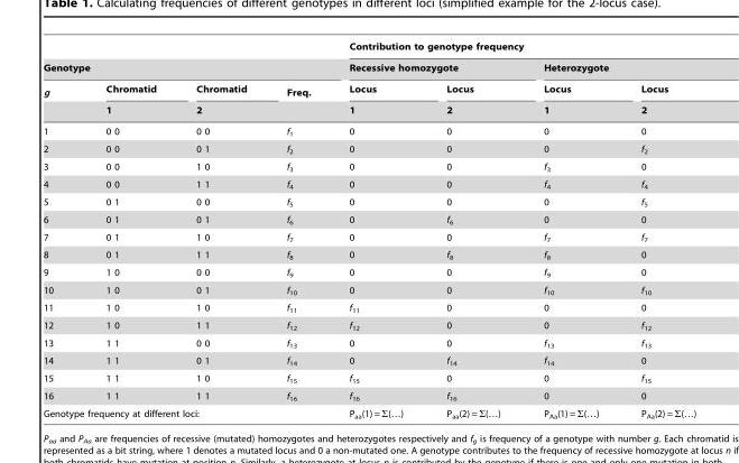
<table><thead><tr><td></td><td></td><td></td><td></td><td colspan="4">Contribution to genotype frequency</td></tr><tr><td colspan="4">Genotype</td><td colspan="2">Recessive homozygote</td><td colspan="2">Heterozygote</td></tr><tr><td rowspan="2">g</td><td rowspan="2">Chromatid 1</td><td rowspan="2">Chromatid 2</td><td rowspan="2">Freq.</td><td rowspan="2">Locus 1</td><td rowspan="2">Locus 2</td><td rowspan="2">Locus 1</td><td rowspan="2">Locus 2</td></tr><tr></tr></thead><tbody><tr><td>1</td><td>0 0</td><td>0 0</td><td>f<sub>1</sub></td><td>0</td><td>0</td><td>0</td><td>0</td></tr><tr><td>2</td><td>0 0</td><td>0 1</td><td>f<sub>2</sub></td><td>0</td><td>0</td><td>0</td><td>f<sub>2</sub></td></tr><tr><td>3</td><td>0 0</td><td>1 0</td><td>f<sub>3</sub></td><td>0</td><td>0</td><td>f<sub>3</sub></td><td>0</td></tr><tr><td>4</td><td>0 0</td><td>1 1</td><td>f<sub>4</sub></td><td>0</td><td>0</td><td>f<sub>4</sub></td><td>f<sub>4</sub></td></tr><tr><td>5</td><td>0 1</td><td>0 0</td><td>f<sub>5</sub></td><td>0</td><td>0</td><td>0</td><td>f<sub>5</sub></td></tr><tr><td>6</td><td>0 1</td><td>0 1</td><td>f<sub>6</sub></td><td>0</td><td>f<sub>6</sub></td><td>0</td><td>0</td></tr><tr><td>7</td><td>0 1</td><td>1 0</td><td>f<sub>7</sub></td><td>0</td><td>0</td><td>f<sub>7</sub></td><td>f<sub>7</sub></td></tr><tr><td>8</td><td>0 1</td><td>1 1</td><td>f<sub>8</sub></td><td>0</td><td>f<sub>8</sub></td><td>f<sub>8</sub></td><td>0</td></tr><tr><td>9</td><td>1 0</td><td>0 0</td><td>f<sub>9</sub></td><td>0</td><td>0</td><td>f<sub>9</sub></td><td>0</td></tr><tr><td>10</td><td>1 0</td><td>0 1</td><td>f<sub>10</sub></td><td>0</td><td>0</td><td>f<sub>10</sub></td><td>f<sub>10</sub></td></tr><tr><td>11</td><td>1 0</td><td>1 0</td><td>f<sub>11</sub></td><td>f<sub>11</sub></td><td>0</td><td>0</td><td>0</td></tr><tr><td>12</td><td>1 0</td><td>1 1</td><td>f<sub>12</sub></td><td>f<sub>12</sub></td><td>0</td><td>0</td><td>f<sub>12</sub></td></tr><tr><td>13</td><td>1 1</td><td>0 0</td><td>f<sub>13</sub></td><td>0</td><td>0</td><td>f<sub>13</sub></td><td>f<sub>13</sub></td></tr><tr><td>14</td><td>1 1</td><td>0 1</td><td>f<sub>14</sub></td><td>0</td><td>f<sub>14</sub></td><td>f<sub>14</sub></td><td>0</td></tr><tr><td>15</td><td>1 1</td><td>1 0</td><td>f<sub>15</sub></td><td>f<sub>15</sub></td><td>0</td><td>0</td><td>f<sub>15</sub></td></tr><tr><td>16</td><td>1 1</td><td>1 1</td><td>f<sub>16</sub></td><td>f<sub>16</sub></td><td>f<sub>16</sub></td><td>0</td><td>0</td></tr><tr><td colspan="4">Genotype frequency at different loci:</td><td>P<sub>aa</sub>(1) = Σ(…)</td><td>P<sub>aa</sub>(2) = Σ(…)</td><td>P<sub>Aa</sub>(1) = Σ(…)</td><td>P<sub>Aa</sub>(2) = Σ(…)</td></tr></tbody></table>